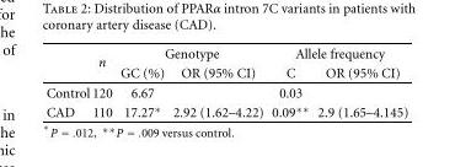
<table><thead><tr><td rowspan="2"></td><td rowspan="2">n</td><td colspan="2">Genotype</td><td colspan="2">Allele frequency</td></tr><tr><td>GC (%)</td><td>OR (95% CI)</td><td>C</td><td>OR (95% CI)</td></tr></thead><tbody><tr><td>Control</td><td>120</td><td>6.67</td><td></td><td>0.03</td><td></td></tr><tr><td>CAD</td><td>110</td><td>17.27∗</td><td>2.92 (1.62–4.22)</td><td>0.09∗∗</td><td>2.9 (1.65–4.145)</td></tr></tbody></table>